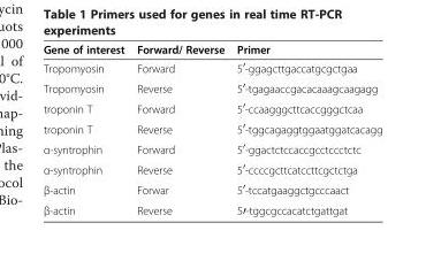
<table><thead><tr><td>Gene of interest</td><td>Forward/ Reverse</td><td>Primer</td></tr></thead><tbody><tr><td>Tropomyosin</td><td>Forward</td><td>5<sup>′</sup>-ggagcttgaccatgcgctgaa</td></tr><tr><td>Tropomyosin</td><td>Reverse</td><td>5<sup>′</sup>-tgagaaccgacacaaagcaagagg</td></tr><tr><td>troponin T</td><td>Forward</td><td>5<sup>′</sup>-ccaagggcttcaccgggctcaa</td></tr><tr><td>troponin T</td><td>Reverse</td><td>5<sup>′</sup>-tggcagaggtggaatggatcacagg</td></tr><tr><td>α-syntrophin</td><td>Forward</td><td>5<sup>′</sup>-ggactctccaccgcctccctctc</td></tr><tr><td>α-syntrophin</td><td>Reverse</td><td>5<sup>′</sup>-ccccgcttcatccttcgctctga</td></tr><tr><td>β-actin</td><td>Forwar</td><td>5<sup>′</sup>-tccatgaaggctgcccaact</td></tr><tr><td>β-actin</td><td>Reverse</td><td>5′-tggcgccacatctgattgat</td></tr></tbody></table>